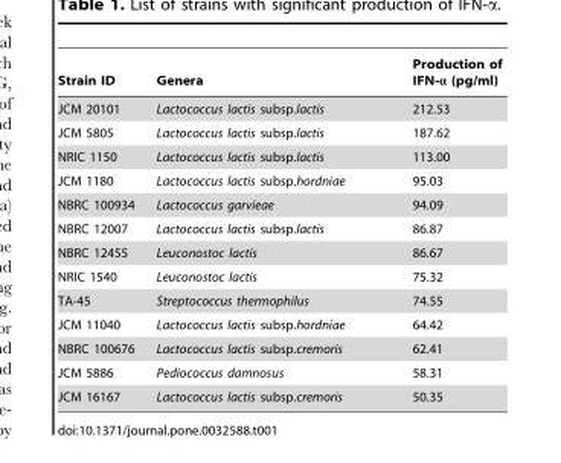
<table><thead><tr><td>Strain ID</td><td>Genera</td><td>Production of IFN-α (pg/ml)</td></tr></thead><tbody><tr><td>JCM 20101</td><td>Lactococcus lactis subsp.lactis</td><td>212.53</td></tr><tr><td>JCM 5805</td><td>Lactococcus lactis subsp.lactis</td><td>187.62</td></tr><tr><td>NRIC 1150</td><td>Lactococcus lactis subsp.lactis</td><td>113.00</td></tr><tr><td>JCM 1180</td><td>Lactococcus lactis subsp.hordniae</td><td>95.03</td></tr><tr><td>NBRC 100934</td><td>Lactococcus garvieae</td><td>94.09</td></tr><tr><td>NBRC 12007</td><td>Lactococcus lactis subsp.lactis</td><td>86.87</td></tr><tr><td>NBRC 12455</td><td>Leuconostoc lactis</td><td>86.67</td></tr><tr><td>NRIC 1540</td><td>Leuconostoc lactis</td><td>75.32</td></tr><tr><td>TA-45</td><td>Streptococcus thermophilus</td><td>74.55</td></tr><tr><td>JCM 11040</td><td>Lactococcus lactis subsp.hordniae</td><td>64.42</td></tr><tr><td>NBRC 100676</td><td>Lactococcus lactis subsp.cremoris</td><td>62.41</td></tr><tr><td>JCM 5886</td><td>Pediococcus damnosus</td><td>58.31</td></tr><tr><td>JCM 16167</td><td>Lactococcus lactis subsp.cremoris</td><td>50.35</td></tr></tbody></table>